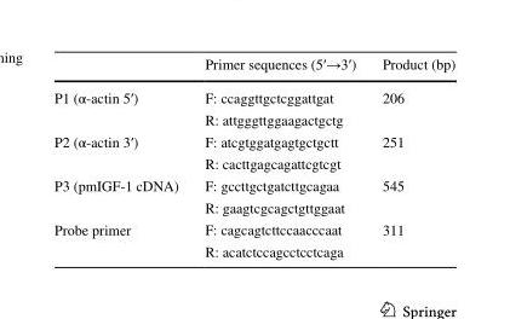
<table><thead><tr><td></td><td>Primer sequences (5′→3′)</td><td>Product (bp)</td></tr></thead><tbody><tr><td rowspan="2">P1 (α-actin 5′)</td><td>F: ccaggttgctcggattgat</td><td rowspan="2">206</td></tr><tr><td>R: attgggttggaagactgctg</td></tr><tr><td rowspan="2">P2 (α-actin 3′)</td><td>F: atcgtggatgagtgctgctt</td><td rowspan="2">251</td></tr><tr><td>R: cacttgagcagattcgtcgt</td></tr><tr><td rowspan="2">P3 (pmIGF-1 cDNA)</td><td>F: gccttgctgatcttgcagaa</td><td rowspan="2">545</td></tr><tr><td>R: gaagtcgcagctgttggaat</td></tr><tr><td rowspan="2">Probe primer</td><td>F: cagcagtcttccaacccaat</td><td rowspan="2">311</td></tr><tr><td>R: acatctccagcctcctcaga</td></tr></tbody></table>